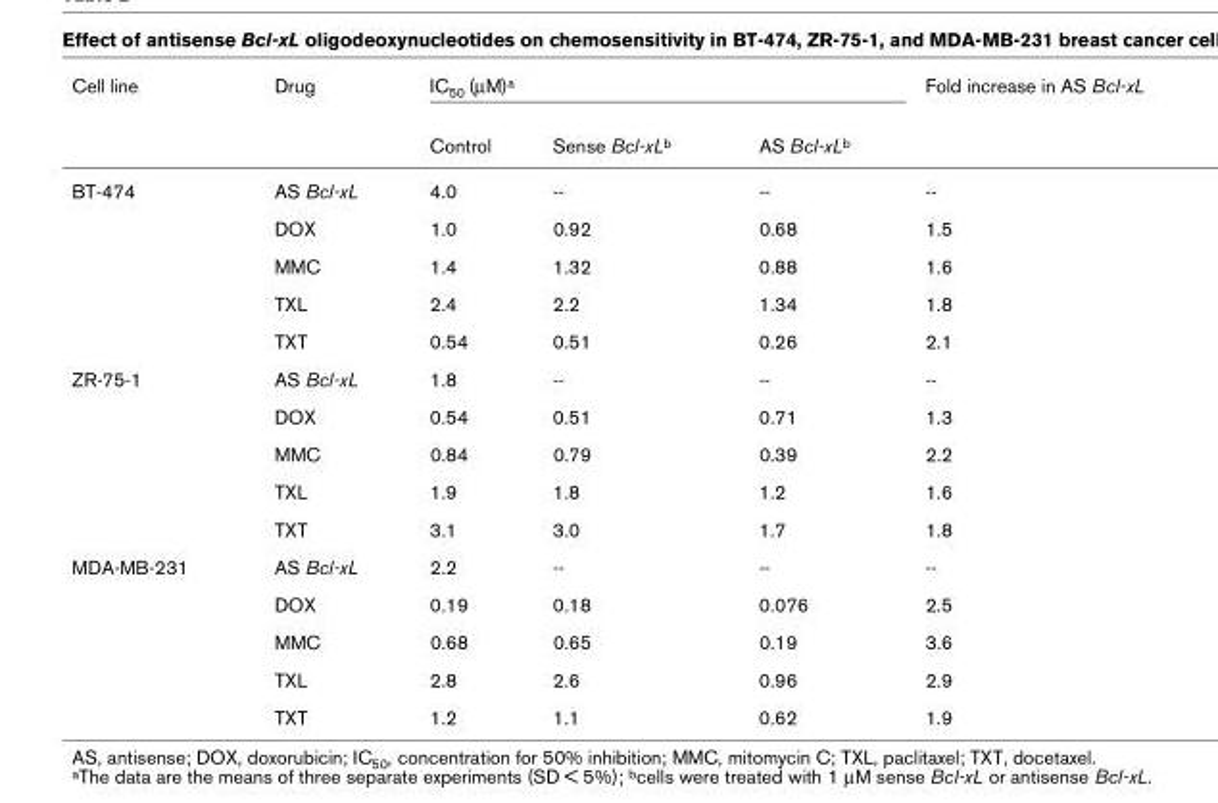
<table><thead><tr><td rowspan="2">Cell line</td><td rowspan="2">Drug</td><td colspan="3">IC50 (µM)a</td><td rowspan="2">Fold increase in AS Bcl-xL</td></tr><tr><td>Control</td><td>Sense Bcl-xLb</td><td>AS Bcl-xLb</td></tr></thead><tbody><tr><td rowspan="5">BT-474</td><td>AS Bcl-xL</td><td>4.0</td><td>--</td><td>--</td><td>--</td></tr><tr><td>DOX</td><td>1.0</td><td>0.92</td><td>0.68</td><td>1.5</td></tr><tr><td>MMC</td><td>1.4</td><td>1.32</td><td>0.88</td><td>1.6</td></tr><tr><td>TXL</td><td>2.4</td><td>2.2</td><td>1.34</td><td>1.8</td></tr><tr><td>TXT</td><td>0.54</td><td>0.51</td><td>0.26</td><td>2.1</td></tr><tr><td rowspan="5">ZR-75-1</td><td>AS Bcl-xL</td><td>1.8</td><td>--</td><td>--</td><td>--</td></tr><tr><td>DOX</td><td>0.54</td><td>0.51</td><td>0.71</td><td>1.3</td></tr><tr><td>MMC</td><td>0.84</td><td>0.79</td><td>0.39</td><td>2.2</td></tr><tr><td>TXL</td><td>1.9</td><td>1.8</td><td>1.2</td><td>1.6</td></tr><tr><td>TXT</td><td>3.1</td><td>3.0</td><td>1.7</td><td>1.8</td></tr><tr><td rowspan="5">MDA-MB-231</td><td>AS Bcl-xL</td><td>2.2</td><td>--</td><td>--</td><td>--</td></tr><tr><td>DOX</td><td>0.19</td><td>0.18</td><td>0.076</td><td>2.5</td></tr><tr><td>MMC</td><td>0.68</td><td>0.65</td><td>0.19</td><td>3.6</td></tr><tr><td>TXL</td><td>2.8</td><td>2.6</td><td>0.96</td><td>2.9</td></tr><tr><td>TXT</td><td>1.2</td><td>1.1</td><td>0.62</td><td>1.9</td></tr></tbody></table>